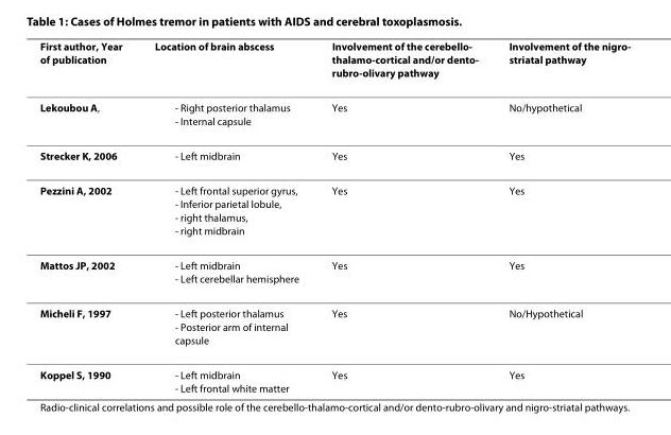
<table><thead><tr><td>First author, Year of publication</td><td>Location of brain abscess</td><td>Involvement of the cerebello- thalamo-cortical and/or dento- rubro-olivary pathway</td><td>Involvement of the nigro- striatal pathway</td></tr></thead><tbody><tr><td>Lekoubou A,</td><td>- Right posterior thalamus - Internal capsule</td><td>Yes</td><td>No/hypothetical</td></tr><tr><td>Strecker K, 2006</td><td>- Left midbrain</td><td>Yes</td><td>Yes</td></tr><tr><td>Pezzini A, 2002</td><td>- Left frontal superior gyrus, - Inferior parietal lobule, - right thalamus, - right midbrain</td><td>Yes</td><td>Yes</td></tr><tr><td>Mattos JP, 2002</td><td>- Left midbrain - Left cerebellar hemisphere</td><td>Yes</td><td>Yes</td></tr><tr><td>Micheli F, 1997</td><td>- Left posterior thalamus - Posterior arm of internal capsule</td><td>Yes</td><td>No/Hypothetical</td></tr><tr><td>Koppel S, 1990</td><td>- Left midbrain - Left frontal white matter</td><td>Yes</td><td>Yes</td></tr></tbody></table>